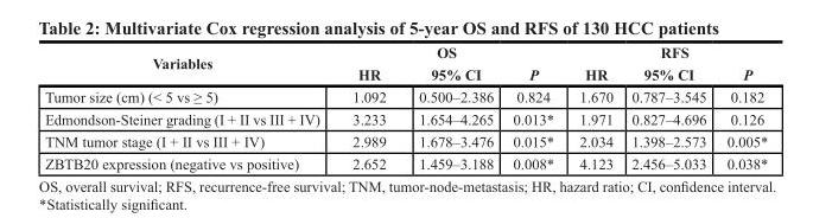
<table><thead><tr><td rowspan="2">Variables</td><td colspan="3">OS</td><td colspan="3">RFS</td></tr><tr><td>HR</td><td>95% CI</td><td>P</td><td>HR</td><td>95% CI</td><td>P</td></tr></thead><tbody><tr><td>Tumor size (cm) (&lt; 5 vs ≥ 5)</td><td>1.092</td><td>0.500–2.386</td><td>0.824</td><td>1.670</td><td>0.787–3.545</td><td>0.182</td></tr><tr><td>Edmondson-Steiner grading (I + II vs III + IV)</td><td>3.233</td><td>1.654–4.265</td><td>0.013*</td><td>1.971</td><td>0.827–4.696</td><td>0.126</td></tr><tr><td>TNM tumor stage (I + II vs III + IV)</td><td>2.989</td><td>1.678–3.476</td><td>0.015*</td><td>2.034</td><td>1.398–2.573</td><td>0.005*</td></tr><tr><td>ZBTB20 expression (negative vs positive)</td><td>2.652</td><td>1.459–3.188</td><td>0.008*</td><td>4.123</td><td>2.456–5.033</td><td>0.038*</td></tr></tbody></table>